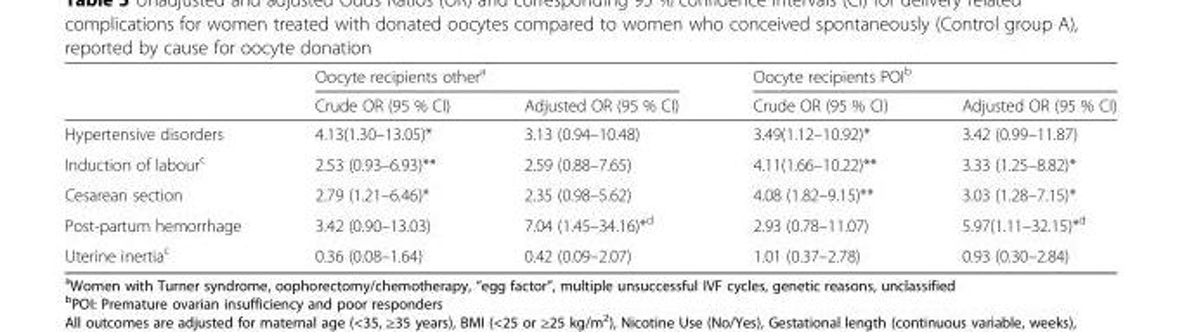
<table><thead><tr><td rowspan="2"></td><td colspan="2">Oocyte recipients other<sup>a</sup></td><td colspan="2">Oocyte recipients POI<sup>b</sup></td></tr><tr><td>Crude OR (95 % CI)</td><td>Adjusted OR (95 % CI)</td><td>Crude OR (95 % CI)</td><td>Adjusted OR (95 % CI)</td></tr></thead><tbody><tr><td>Hypertensive disorders</td><td>4.13(1.30–13.05)*</td><td>3.13 (0.94–10.48)</td><td>3.49(1.12–10.92)*</td><td>3.42 (0.99–11.87)</td></tr><tr><td>Induction of labour<sup>c</sup></td><td>2.53 (0.93–6.93)**</td><td>2.59 (0.88–7.65)</td><td>4.11(1.66–10.22)**</td><td>3.33 (1.25–8.82)*</td></tr><tr><td>Cesarean section</td><td>2.79 (1.21–6.46)*</td><td>2.35 (0.98–5.62)</td><td>4.08 (1.82–9.15)**</td><td>3.03 (1.28–7.15)*</td></tr><tr><td>Post-partum hemorrhage</td><td>3.42 (0.90–13.03)</td><td>7.04 (1.45–34.16)*<sup>d</sup></td><td>2.93 (0.78–11.07)</td><td>5.97(1.11–32.15)*<sup>d</sup></td></tr><tr><td>Uterine inertia<sup>c</sup></td><td>0.36 (0.08–1.64)</td><td>0.42 (0.09–2.07)</td><td>1.01 (0.37–2.78)</td><td>0.93 (0.30–2.84)</td></tr></tbody></table>